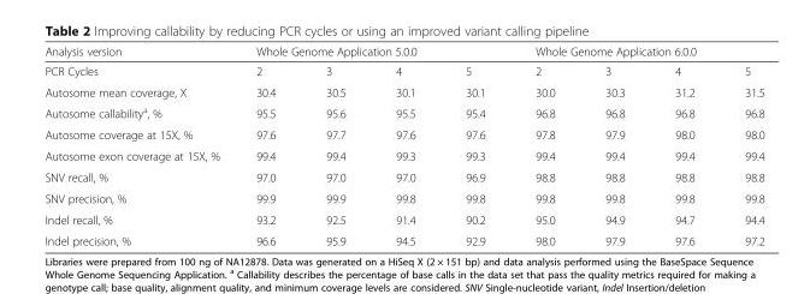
<table><thead><tr><td rowspan="2">Analysis version PCR Cycles</td><td colspan="4">Whole Genome Application 5.0.0</td><td colspan="4">Whole Genome Application 6.0.0</td></tr><tr><td>2</td><td>3</td><td>4</td><td>5</td><td>2</td><td>3</td><td>4</td><td>5</td></tr></thead><tbody><tr><td>Autosome mean coverage, X</td><td>30.4</td><td>30.5</td><td>30.1</td><td>30.1</td><td>30.0</td><td>30.3</td><td>31.2</td><td>31.5</td></tr><tr><td>Autosome callability<sup>a</sup>, %</td><td>95.5</td><td>95.6</td><td>95.5</td><td>95.4</td><td>96.8</td><td>96.8</td><td>96.8</td><td>96.8</td></tr><tr><td>Autosome coverage at 15X, %</td><td>97.6</td><td>97.7</td><td>97.6</td><td>97.6</td><td>97.8</td><td>97.9</td><td>98.0</td><td>98.0</td></tr><tr><td>Autosome exon coverage at 15X, %</td><td>99.4</td><td>99.4</td><td>99.3</td><td>99.3</td><td>99.4</td><td>99.4</td><td>99.4</td><td>99.4</td></tr><tr><td>SNV recall, %</td><td>97.0</td><td>97.0</td><td>97.0</td><td>96.9</td><td>98.8</td><td>98.8</td><td>98.8</td><td>98.8</td></tr><tr><td>SNV precision, %</td><td>99.9</td><td>99.9</td><td>99.8</td><td>99.8</td><td>99.8</td><td>99.8</td><td>99.8</td><td>99.8</td></tr><tr><td>Indel recall, %</td><td>93.2</td><td>92.5</td><td>91.4</td><td>90.2</td><td>95.0</td><td>94.9</td><td>94.7</td><td>94.4</td></tr><tr><td>Indel precision, %</td><td>96.6</td><td>95.9</td><td>94.5</td><td>92.9</td><td>98.0</td><td>97.9</td><td>97.6</td><td>97.2</td></tr></tbody></table>